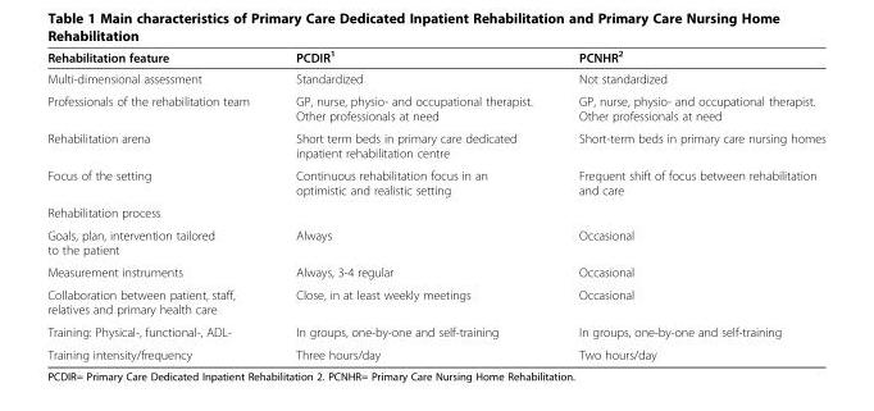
<table><thead><tr><td>Rehabilitation feature</td><td>PCDIR<sup>1</sup></td><td>PCNHR<sup>2</sup></td></tr></thead><tbody><tr><td>Multi-dimensional assessment</td><td>Standardized</td><td>Not standardized</td></tr><tr><td>Professionals of the rehabilitation team</td><td>GP, nurse, physio- and occupational therapist. Other professionals at need</td><td>GP, nurse, physio- and occupational therapist. Other professionals at need</td></tr><tr><td>Rehabilitation arena</td><td>Short term beds in primary care dedicated inpatient rehabilitation centre</td><td>Short-term beds in primary care nursing homes</td></tr><tr><td>Focus of the setting</td><td>Continuous rehabilitation focus in an optimistic and realistic setting</td><td>Frequent shift of focus between rehabilitation and care</td></tr><tr><td colspan="3">Rehabilitation process</td></tr><tr><td>Goals, plan, intervention tailored to the patient</td><td>Always</td><td>Occasional</td></tr><tr><td>Measurement instruments</td><td>Always, 3-4 regular</td><td>Occasional</td></tr><tr><td>Collaboration between patient, staff, relatives and primary health care</td><td>Close, in at least weekly meetings</td><td>Occasional</td></tr><tr><td>Training: Physical-, functional-, ADL-</td><td>In groups, one-by-one and self-training</td><td>In groups, one-by-one and self-training</td></tr><tr><td>Training intensity/frequency</td><td>Three hours/day</td><td>Two hours/day</td></tr></tbody></table>